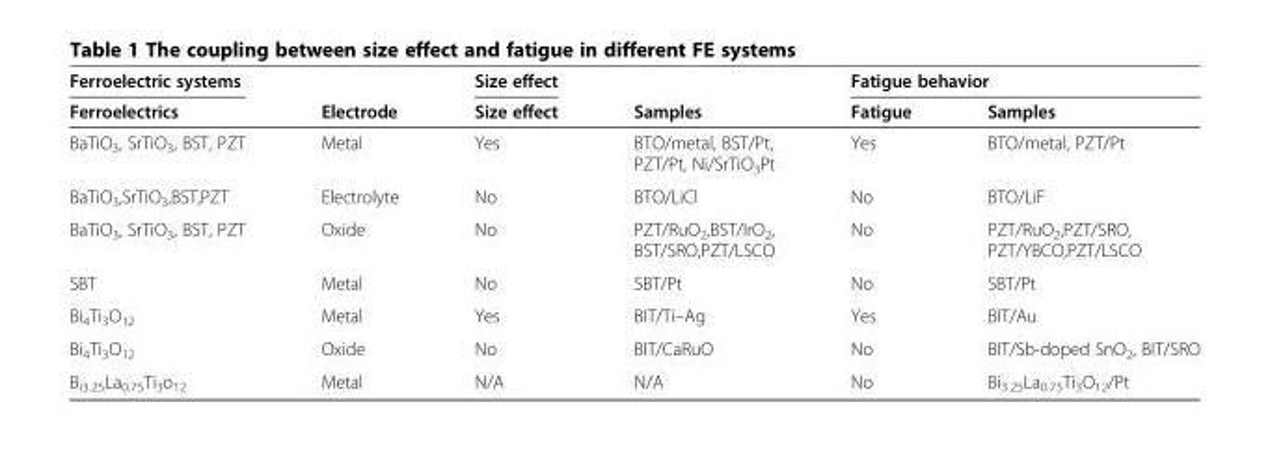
<table><thead><tr><td rowspan="2">Ferroelectric systems Ferroelectrics</td><td rowspan="2">Electrode</td><td rowspan="2">Size effect Size effect</td><td rowspan="2">Samples</td><td colspan="2">Fatigue behavior</td></tr><tr><td>Fatigue</td><td>Samples</td></tr></thead><tbody><tr><td>BaTiO<sub>3</sub>, SrTiO<sub>3</sub>, BST, PZT</td><td>Metal</td><td>Yes</td><td>BTO/metal, BST/Pt, PZT/Pt, Ni/SrTiO<sub>3</sub>Pt</td><td>Yes</td><td>BTO/metal, PZT/Pt</td></tr><tr><td>BaTiO<sub>3</sub>,SrTiO<sub>3</sub>,BST,PZT</td><td>Electrolyte</td><td>No</td><td>BTO/LiCl</td><td>No</td><td>BTO/LiF</td></tr><tr><td>BaTiO<sub>3</sub>, SrTiO<sub>3</sub>, BST, PZT</td><td>Oxide</td><td>No</td><td>PZT/RuO<sub>2</sub>,BST/IrO<sub>2</sub>, BST/SRO,PZT/LSCO</td><td>No</td><td>PZT/RuO<sub>2</sub>,PZT/SRO, PZT/YBCO,PZT/LSCO</td></tr><tr><td>SBT</td><td>Metal</td><td>No</td><td>SBT/Pt</td><td>No</td><td>SBT/Pt</td></tr><tr><td>Bi<sub>4</sub>Ti<sub>3</sub>O<sub>12</sub></td><td>Metal</td><td>Yes</td><td>BIT/Ti–Ag</td><td>Yes</td><td>BIT/Au</td></tr><tr><td>Bi<sub>4</sub>Ti<sub>3</sub>O<sub>12</sub></td><td>Oxide</td><td>No</td><td>BIT/CaRuO</td><td>No</td><td>BIT/Sb-doped SnO<sub>2</sub>, BIT/SRO</td></tr><tr><td>B<sub>i3.25</sub>La<sub>0.75</sub>Ti<sub>3</sub>o<sub>12</sub></td><td>Metal</td><td>N/A</td><td>N/A</td><td>No</td><td>Bi<sub>3.25</sub>La<sub>0.75</sub>Ti<sub>3</sub>O<sub>12</sub>/Pt</td></tr></tbody></table>